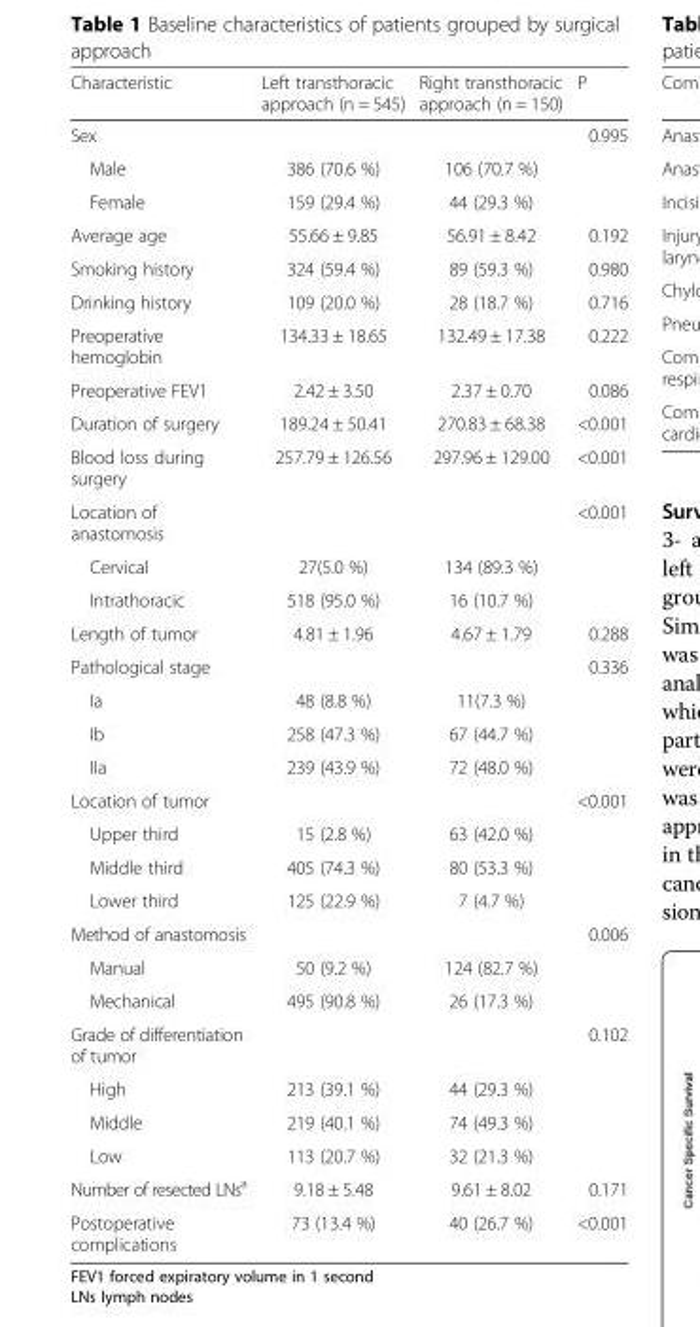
<table><thead><tr><td>Characteristic</td><td>Left transthoracic approach (n = 545)</td><td>Right transthoracic approach (n = 150)</td><td>P</td></tr></thead><tbody><tr><td>Sex</td><td></td><td></td><td>0.995</td></tr><tr><td>Male</td><td>386 (70.6 %)</td><td>106 (70.7 %)</td><td></td></tr><tr><td>Female</td><td>159 (29.4 %)</td><td>44 (29.3 %)</td><td></td></tr><tr><td>Average age</td><td>55.66 ± 9.85</td><td>56.91 ± 8.42</td><td>0.192</td></tr><tr><td>Smoking history</td><td>324 (59.4 %)</td><td>89 (59.3 %)</td><td>0.980</td></tr><tr><td>Drinking history</td><td>109 (20.0 %)</td><td>28 (18.7 %)</td><td>0.716</td></tr><tr><td>Preoperative hemoglobin</td><td>134.33 ± 18.65</td><td>132.49 ± 17.38</td><td>0.222</td></tr><tr><td>Preoperative FEV1</td><td>2.42 ± 3.50</td><td>2.37 ± 0.70</td><td>0.086</td></tr><tr><td>Duration of surgery</td><td>189.24 ± 50.41</td><td>270.83 ± 68.38</td><td>&lt;0.001</td></tr><tr><td>Blood loss during surgery</td><td>257.79 ± 126.56</td><td>297.96 ± 129.00</td><td>&lt;0.001</td></tr><tr><td>Location of anastomosis</td><td></td><td></td><td>&lt;0.001</td></tr><tr><td>Cervical</td><td>27(5.0 %)</td><td>134 (89.3 %)</td><td></td></tr><tr><td>Intrathoracic</td><td>518 (95.0 %)</td><td>16 (10.7 %)</td><td></td></tr><tr><td>Length of tumor</td><td>4.81 ± 1.96</td><td>4.67 ± 1.79</td><td>0.288</td></tr><tr><td>Pathological stage</td><td></td><td></td><td>0.336</td></tr><tr><td>Ia</td><td>48 (8.8 %)</td><td>11(7.3 %)</td><td></td></tr><tr><td>Ib</td><td>258 (47.3 %)</td><td>67 (44.7 %)</td><td></td></tr><tr><td>IIa</td><td>239 (43.9 %)</td><td>72 (48.0 %)</td><td></td></tr><tr><td>Location of tumor</td><td></td><td></td><td>&lt;0.001</td></tr><tr><td>Upper third</td><td>15 (2.8 %)</td><td>63 (42.0 %)</td><td></td></tr><tr><td>Middle third</td><td>405 (74.3 %)</td><td>80 (53.3 %)</td><td></td></tr><tr><td>Lower third</td><td>125 (22.9 %)</td><td>7 (4.7 %)</td><td></td></tr><tr><td>Method of anastomosis</td><td></td><td></td><td>0.006</td></tr><tr><td>Manual</td><td>50 (9.2 %)</td><td>124 (82.7 %)</td><td></td></tr><tr><td>Mechanical</td><td>495 (90.8 %)</td><td>26 (17.3 %)</td><td></td></tr><tr><td>Grade of differentiation of tumor</td><td></td><td></td><td>0.102</td></tr><tr><td>High</td><td>213 (39.1 %)</td><td>44 (29.3 %)</td><td></td></tr><tr><td>Middle</td><td>219 (40.1 %)</td><td>74 (49.3 %)</td><td></td></tr><tr><td>Low</td><td>113 (20.7 %)</td><td>32 (21.3 %)</td><td></td></tr><tr><td>Number of resected LNs<sup>a</sup></td><td>9.18 ± 5.48</td><td>9.61 ± 8.02</td><td>0.171</td></tr><tr><td>Postoperative complications</td><td>73 (13.4 %)</td><td>40 (26.7 %)</td><td>&lt;0.001</td></tr></tbody></table>